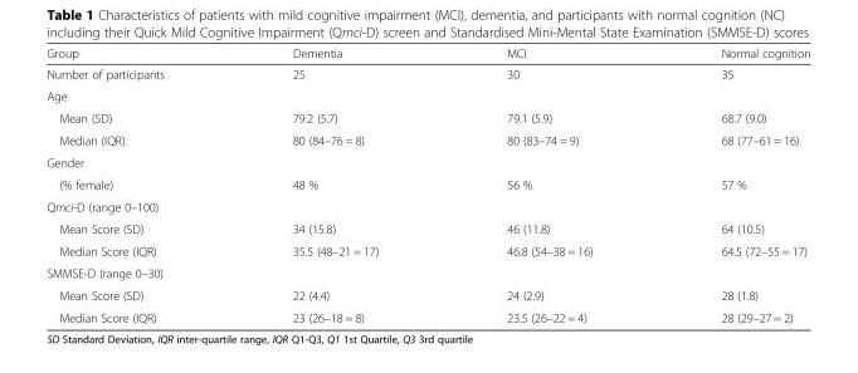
<table><thead><tr><td>Group</td><td>Dementia</td><td>MCI</td><td>Normal cognition</td></tr></thead><tbody><tr><td>Number of participants</td><td>25</td><td>30</td><td>35</td></tr><tr><td colspan="4">Age</td></tr><tr><td>Mean (SD)</td><td>79.2 (5.7)</td><td>79.1 (5.9)</td><td>68.7 (9.0)</td></tr><tr><td>Median (IQR)</td><td>80 (84–76 = 8)</td><td>80 (83–74 = 9)</td><td>68 (77–61 = 16)</td></tr><tr><td colspan="4">Gender</td></tr><tr><td>(% female)</td><td>48 %</td><td>56 %</td><td>57 %</td></tr><tr><td colspan="4">Qmci-D (range 0–100)</td></tr><tr><td>Mean Score (SD)</td><td>34 (15.8)</td><td>46 (11.8)</td><td>64 (10.5)</td></tr><tr><td>Median Score (IQR)</td><td>35.5 (48–21 = 17)</td><td>46.8 (54–38 = 16)</td><td>64.5 (72–55 = 17)</td></tr><tr><td colspan="4">SMMSE-D (range 0–30)</td></tr><tr><td>Mean Score (SD)</td><td>22 (4.4)</td><td>24 (2.9)</td><td>28 (1.8)</td></tr><tr><td>Median Score (IQR)</td><td>23 (26–18 = 8)</td><td>23.5 (26–22 = 4)</td><td>28 (29–27 = 2)</td></tr></tbody></table>